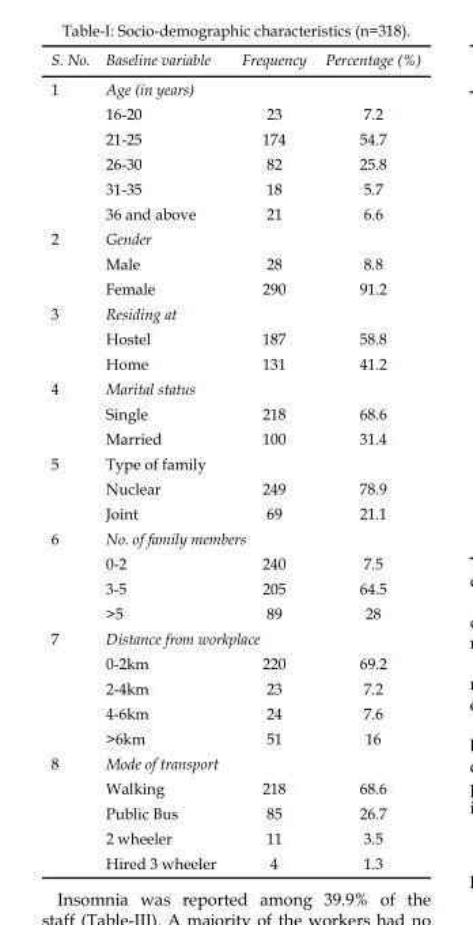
<table><thead><tr><td rowspan="2">S. No. 1</td><td>Baseline variable</td><td>Frequency</td><td>Percentage (%)</td></tr><tr><td colspan="3">Age (in years)</td></tr></thead><tbody><tr><td></td><td>16-20</td><td>23</td><td>7.2</td></tr><tr><td></td><td>21-25</td><td>174</td><td>54.7</td></tr><tr><td></td><td>26-30</td><td>82</td><td>25.8</td></tr><tr><td></td><td>31-35</td><td>18</td><td>5.7</td></tr><tr><td></td><td>36 and above</td><td>21</td><td>6.6</td></tr><tr><td rowspan="3">2</td><td colspan="3">Gender</td></tr><tr><td>Male</td><td>28</td><td>8.8</td></tr><tr><td>Female</td><td>290</td><td>91.2</td></tr><tr><td rowspan="3">3</td><td colspan="3">Residing at</td></tr><tr><td>Hostel</td><td>187</td><td>58.8</td></tr><tr><td>Home</td><td>131</td><td>41.2</td></tr><tr><td rowspan="3">4</td><td colspan="3">Marital status</td></tr><tr><td>Single</td><td>218</td><td>68.6</td></tr><tr><td>Married</td><td>100</td><td>31.4</td></tr><tr><td rowspan="3">5</td><td colspan="3">Type of family</td></tr><tr><td>Nuclear</td><td>249</td><td>78.9</td></tr><tr><td>Joint</td><td>69</td><td>21.1</td></tr><tr><td rowspan="4">6</td><td colspan="3">No. of family members</td></tr><tr><td>0-2</td><td>240</td><td>7.5</td></tr><tr><td>3-5</td><td>205</td><td>64.5</td></tr><tr><td>&gt;5</td><td>89</td><td>28</td></tr><tr><td rowspan="5">7</td><td colspan="3">Distance from workplace</td></tr><tr><td>0-2km</td><td>220</td><td>69.2</td></tr><tr><td>2-4km</td><td>23</td><td>7.2</td></tr><tr><td>4-6km</td><td>24</td><td>7.6</td></tr><tr><td>&gt;6km</td><td>51</td><td>16</td></tr><tr><td rowspan="5">8</td><td colspan="3">Mode of transport</td></tr><tr><td>Walking</td><td>218</td><td>68.6</td></tr><tr><td>Public Bus</td><td>85</td><td>26.7</td></tr><tr><td>2 wheeler</td><td>11</td><td>3.5</td></tr><tr><td>Hired 3 wheeler</td><td>4</td><td>1.3</td></tr></tbody></table>